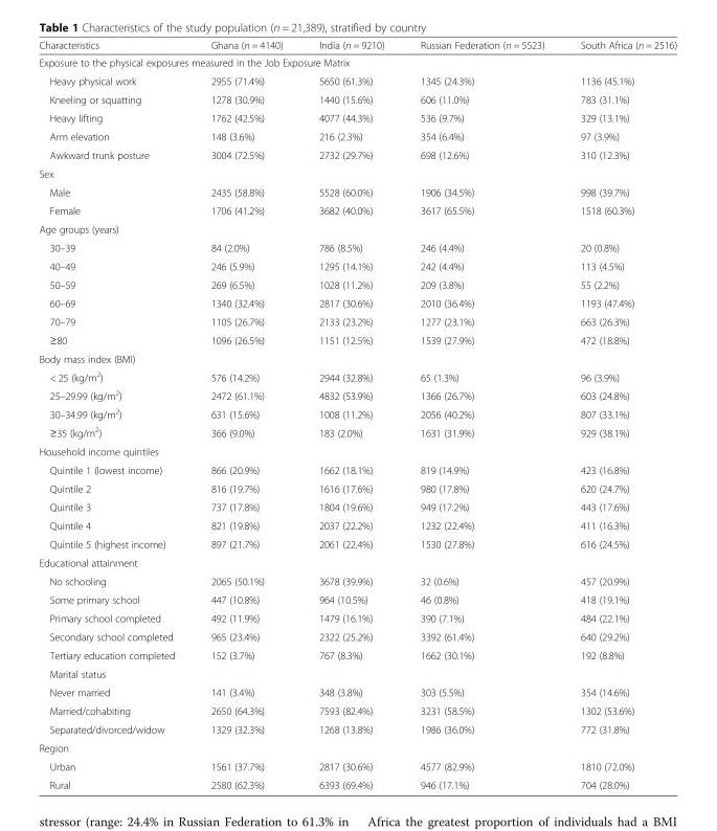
<table><thead><tr><td>Characteristics</td><td>Ghana (n = 4140)</td><td>India (n = 9210)</td><td>Russian Federation (n = 5523)</td><td>South Africa (n = 2516)</td></tr></thead><tbody><tr><td colspan="5">Exposure to the physical exposures measured in the Job Exposure Matrix</td></tr><tr><td>Heavy physical work</td><td>2955 (71.4%)</td><td>5650 (61.3%)</td><td>1345 (24.3%)</td><td>1136 (45.1%)</td></tr><tr><td>Kneeling or squatting</td><td>1278 (30.9%)</td><td>1440 (15.6%)</td><td>606 (11.0%)</td><td>783 (31.1%)</td></tr><tr><td>Heavy lifting</td><td>1762 (42.5%)</td><td>4077 (44.3%)</td><td>536 (9.7%)</td><td>329 (13.1%)</td></tr><tr><td>Arm elevation</td><td>148 (3.6%)</td><td>216 (2.3%)</td><td>354 (6.4%)</td><td>97 (3.9%)</td></tr><tr><td>Awkward trunk posture</td><td>3004 (72.5%)</td><td>2732 (29.7%)</td><td>698 (12.6%)</td><td>310 (12.3%)</td></tr><tr><td colspan="5">Sex</td></tr><tr><td>Male</td><td>2435 (58.8%)</td><td>5528 (60.0%)</td><td>1906 (34.5%)</td><td>998 (39.7%)</td></tr><tr><td>Female</td><td>1706 (41.2%)</td><td>3682 (40.0%)</td><td>3617 (65.5%)</td><td>1518 (60.3%)</td></tr><tr><td colspan="5">Age groups (years)</td></tr><tr><td>30–39</td><td>84 (2.0%)</td><td>786 (8.5%)</td><td>246 (4.4%)</td><td>20 (0.8%)</td></tr><tr><td>40–49</td><td>246 (5.9%)</td><td>1295 (14.1%)</td><td>242 (4.4%)</td><td>113 (4.5%)</td></tr><tr><td>50–59</td><td>269 (6.5%)</td><td>1028 (11.2%)</td><td>209 (3.8%)</td><td>55 (2.2%)</td></tr><tr><td>60–69</td><td>1340 (32.4%)</td><td>2817 (30.6%)</td><td>2010 (36.4%)</td><td>1193 (47.4%)</td></tr><tr><td>70–79</td><td>1105 (26.7%)</td><td>2133 (23.2%)</td><td>1277 (23.1%)</td><td>663 (26.3%)</td></tr><tr><td>≥80</td><td>1096 (26.5%)</td><td>1151 (12.5%)</td><td>1539 (27.9%)</td><td>472 (18.8%)</td></tr><tr><td colspan="5">Body mass index (BMI)</td></tr><tr><td>&lt; 25 (kg/m<sup>2</sup>)</td><td>576 (14.2%)</td><td>2944 (32.8%)</td><td>65 (1.3%)</td><td>96 (3.9%)</td></tr><tr><td>25–29.99 (kg/m<sup>2</sup>)</td><td>2472 (61.1%)</td><td>4832 (53.9%)</td><td>1366 (26.7%)</td><td>603 (24.8%)</td></tr><tr><td>30–34.99 (kg/m<sup>2</sup>)</td><td>631 (15.6%)</td><td>1008 (11.2%)</td><td>2056 (40.2%)</td><td>807 (33.1%)</td></tr><tr><td>≥35 (kg/m<sup>2</sup>)</td><td>366 (9.0%)</td><td>183 (2.0%)</td><td>1631 (31.9%)</td><td>929 (38.1%)</td></tr><tr><td colspan="5">Household income quintiles</td></tr><tr><td>Quintile 1 (lowest income)</td><td>866 (20.9%)</td><td>1662 (18.1%)</td><td>819 (14.9%)</td><td>423 (16.8%)</td></tr><tr><td>Quintile 2</td><td>816 (19.7%)</td><td>1616 (17.6%)</td><td>980 (17.8%)</td><td>620 (24.7%)</td></tr><tr><td>Quintile 3</td><td>737 (17.8%)</td><td>1804 (19.6%)</td><td>949 (17.2%)</td><td>443 (17.6%)</td></tr><tr><td>Quintile 4</td><td>821 (19.8%)</td><td>2037 (22.2%)</td><td>1232 (22.4%)</td><td>411 (16.3%)</td></tr><tr><td>Quintile 5 (highest income)</td><td>897 (21.7%)</td><td>2061 (22.4%)</td><td>1530 (27.8%)</td><td>616 (24.5%)</td></tr><tr><td colspan="5">Educational attainment</td></tr><tr><td>No schooling</td><td>2065 (50.1%)</td><td>3678 (39.9%)</td><td>32 (0.6%)</td><td>457 (20.9%)</td></tr><tr><td>Some primary school</td><td>447 (10.8%)</td><td>964 (10.5%)</td><td>46 (0.8%)</td><td>418 (19.1%)</td></tr><tr><td>Primary school completed</td><td>492 (11.9%)</td><td>1479 (16.1%)</td><td>390 (7.1%)</td><td>484 (22.1%)</td></tr><tr><td>Secondary school completed</td><td>965 (23.4%)</td><td>2322 (25.2%)</td><td>3392 (61.4%)</td><td>640 (29.2%)</td></tr><tr><td>Tertiary education completed</td><td>152 (3.7%)</td><td>767 (8.3%)</td><td>1662 (30.1%)</td><td>192 (8.8%)</td></tr><tr><td colspan="5">Marital status</td></tr><tr><td>Never married</td><td>141 (3.4%)</td><td>348 (3.8%)</td><td>303 (5.5%)</td><td>354 (14.6%)</td></tr><tr><td>Married/cohabiting</td><td>2650 (64.3%)</td><td>7593 (82.4%)</td><td>3231 (58.5%)</td><td>1302 (53.6%)</td></tr><tr><td>Separated/divorced/widow</td><td>1329 (32.3%)</td><td>1268 (13.8%)</td><td>1986 (36.0%)</td><td>772 (31.8%)</td></tr><tr><td colspan="5">Region</td></tr><tr><td>Urban</td><td>1561 (37.7%)</td><td>2817 (30.6%)</td><td>4577 (82.9%)</td><td>1810 (72.0%)</td></tr><tr><td>Rural</td><td>2580 (62.3%)</td><td>6393 (69.4%)</td><td>946 (17.1%)</td><td>704 (28.0%)</td></tr></tbody></table>